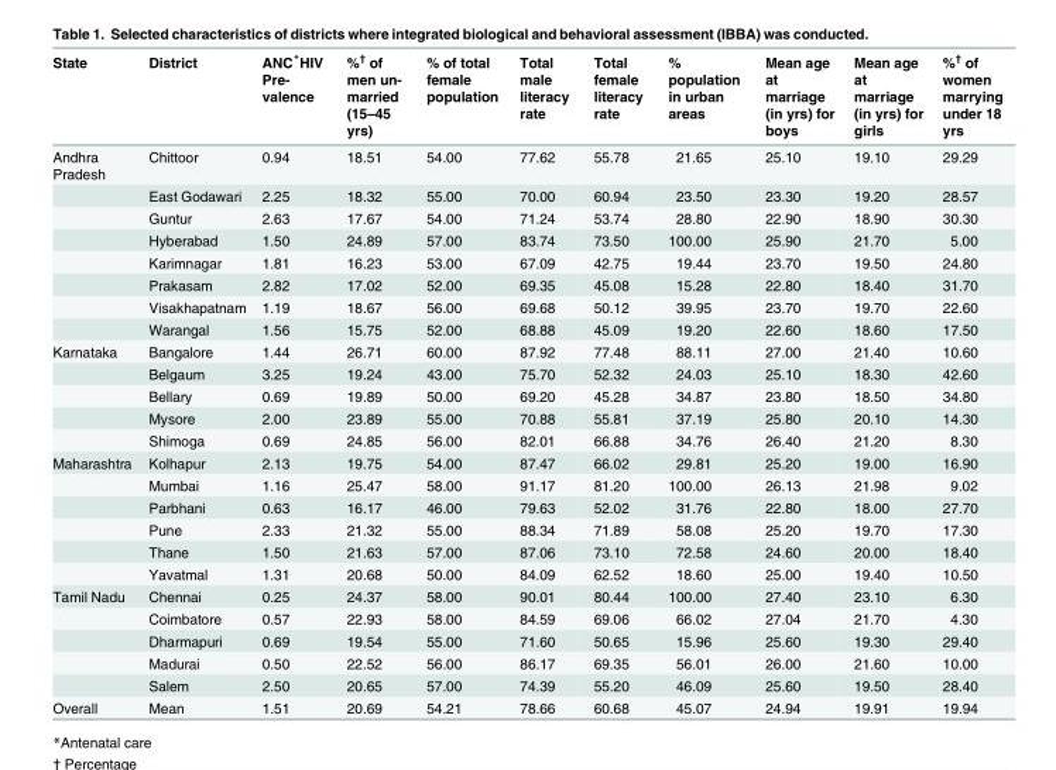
<table><thead><tr><td>State</td><td>District</td><td>ANC*HIV Pre- valence</td><td>%<sup>†</sup> of men un- married (15–45 yrs)</td><td>% of total female population</td><td>Total male literacy rate</td><td>Total female literacy rate</td><td>% population in urban areas</td><td>Mean age at marriage (in yrs) for boys</td><td>Mean age at marriage (in yrs) for girls</td><td>%<sup>†</sup> of women marrying under 18 yrs</td></tr></thead><tbody><tr><td rowspan="8">Andhra Pradesh</td><td>Chittoor</td><td>0.94</td><td>18.51</td><td>54.00</td><td>77.62</td><td>55.78</td><td>21.65</td><td>25.10</td><td>19.10</td><td>29.29</td></tr><tr><td>East Godawari</td><td>2.25</td><td>18.32</td><td>55.00</td><td>70.00</td><td>60.94</td><td>23.50</td><td>23.30</td><td>19.20</td><td>28.57</td></tr><tr><td>Guntur</td><td>2.63</td><td>17.67</td><td>54.00</td><td>71.24</td><td>53.74</td><td>28.80</td><td>22.90</td><td>18.90</td><td>30.30</td></tr><tr><td>Hyberabad</td><td>1.50</td><td>24.89</td><td>57.00</td><td>83.74</td><td>73.50</td><td>100.00</td><td>25.90</td><td>21.70</td><td>5.00</td></tr><tr><td>Karimnagar</td><td>1.81</td><td>16.23</td><td>53.00</td><td>67.09</td><td>42.75</td><td>19.44</td><td>23.70</td><td>19.50</td><td>24.80</td></tr><tr><td>Prakasam</td><td>2.82</td><td>17.02</td><td>52.00</td><td>69.35</td><td>45.08</td><td>15.28</td><td>22.80</td><td>18.40</td><td>31.70</td></tr><tr><td>Visakhapatnam</td><td>1.19</td><td>18.67</td><td>56.00</td><td>69.68</td><td>50.12</td><td>39.95</td><td>23.70</td><td>19.70</td><td>22.60</td></tr><tr><td>Warangal</td><td>1.56</td><td>15.75</td><td>52.00</td><td>68.88</td><td>45.09</td><td>19.20</td><td>22.60</td><td>18.60</td><td>17.50</td></tr><tr><td rowspan="5">Karnataka</td><td>Bangalore</td><td>1.44</td><td>26.71</td><td>60.00</td><td>87.92</td><td>77.48</td><td>88.11</td><td>27.00</td><td>21.40</td><td>10.60</td></tr><tr><td>Belgaum</td><td>3.25</td><td>19.24</td><td>43.00</td><td>75.70</td><td>52.32</td><td>24.03</td><td>25.10</td><td>18.30</td><td>42.60</td></tr><tr><td>Bellary</td><td>0.69</td><td>19.89</td><td>50.00</td><td>69.20</td><td>45.28</td><td>34.87</td><td>23.80</td><td>18.50</td><td>34.80</td></tr><tr><td>Mysore</td><td>2.00</td><td>23.89</td><td>55.00</td><td>70.88</td><td>55.81</td><td>37.19</td><td>25.80</td><td>20.10</td><td>14.30</td></tr><tr><td>Shimoga</td><td>0.69</td><td>24.85</td><td>56.00</td><td>82.01</td><td>66.88</td><td>34.76</td><td>26.40</td><td>21.20</td><td>8.30</td></tr><tr><td rowspan="6">Maharashtra</td><td>Kolhapur</td><td>2.13</td><td>19.75</td><td>54.00</td><td>87.47</td><td>66.02</td><td>29.81</td><td>25.20</td><td>19.00</td><td>16.90</td></tr><tr><td>Mumbai</td><td>1.16</td><td>25.47</td><td>58.00</td><td>91.17</td><td>81.20</td><td>100.00</td><td>26.13</td><td>21.98</td><td>9.02</td></tr><tr><td>Parbhani</td><td>0.63</td><td>16.17</td><td>46.00</td><td>79.63</td><td>52.02</td><td>31.76</td><td>22.80</td><td>18.00</td><td>27.70</td></tr><tr><td>Pune</td><td>2.33</td><td>21.32</td><td>55.00</td><td>88.34</td><td>71.89</td><td>58.08</td><td>25.20</td><td>19.70</td><td>17.30</td></tr><tr><td>Thane</td><td>1.50</td><td>21.63</td><td>57.00</td><td>87.06</td><td>73.10</td><td>72.58</td><td>24.60</td><td>20.00</td><td>18.40</td></tr><tr><td>Yavatmal</td><td>1.31</td><td>20.68</td><td>50.00</td><td>84.09</td><td>62.52</td><td>18.60</td><td>25.00</td><td>19.40</td><td>10.50</td></tr><tr><td rowspan="5">Tamil Nadu</td><td>Chennai</td><td>0.25</td><td>24.37</td><td>58.00</td><td>90.01</td><td>80.44</td><td>100.00</td><td>27.40</td><td>23.10</td><td>6.30</td></tr><tr><td>Coimbatore</td><td>0.57</td><td>22.93</td><td>58.00</td><td>84.59</td><td>69.06</td><td>66.02</td><td>27.04</td><td>21.70</td><td>4.30</td></tr><tr><td>Dharmapuri</td><td>0.69</td><td>19.54</td><td>55.00</td><td>71.60</td><td>50.65</td><td>15.96</td><td>25.60</td><td>19.30</td><td>29.40</td></tr><tr><td>Madurai</td><td>0.50</td><td>22.52</td><td>56.00</td><td>86.17</td><td>69.35</td><td>56.01</td><td>26.00</td><td>21.60</td><td>10.00</td></tr><tr><td>Salem</td><td>2.50</td><td>20.65</td><td>57.00</td><td>74.39</td><td>55.20</td><td>46.09</td><td>25.60</td><td>19.50</td><td>28.40</td></tr><tr><td>Overall</td><td>Mean</td><td>1.51</td><td>20.69</td><td>54.21</td><td>78.66</td><td>60.68</td><td>45.07</td><td>24.94</td><td>19.91</td><td>19.94</td></tr></tbody></table>